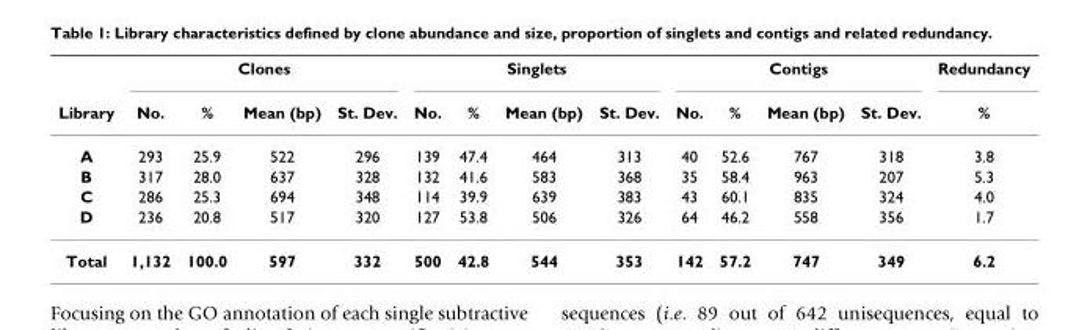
<table><thead><tr><td rowspan="2">Library</td><td colspan="4">Clones</td><td colspan="4">Singlets</td><td colspan="4">Contigs</td><td rowspan="2">Redundancy %</td></tr><tr><td>No.</td><td>%</td><td>Mean (bp)</td><td>St. Dev.</td><td>No.</td><td>%</td><td>Mean (bp)</td><td>St. Dev.</td><td>No.</td><td>%</td><td>Mean (bp)</td><td>St. Dev.</td></tr></thead><tbody><tr><td>A</td><td>293</td><td>25.9</td><td>522</td><td>296</td><td>139</td><td>47.4</td><td>464</td><td>313</td><td>40</td><td>52.6</td><td>767</td><td>318</td><td>3.8</td></tr><tr><td>B</td><td>317</td><td>28.0</td><td>637</td><td>328</td><td>132</td><td>41.6</td><td>583</td><td>368</td><td>35</td><td>58.4</td><td>963</td><td>207</td><td>5.3</td></tr><tr><td>C</td><td>286</td><td>25.3</td><td>694</td><td>348</td><td>114</td><td>39.9</td><td>639</td><td>383</td><td>43</td><td>60.1</td><td>835</td><td>324</td><td>4.0</td></tr><tr><td>D</td><td>236</td><td>20.8</td><td>517</td><td>320</td><td>127</td><td>53.8</td><td>506</td><td>326</td><td>64</td><td>46.2</td><td>558</td><td>356</td><td>1.7</td></tr><tr><td>Total</td><td>1,132</td><td>100.0</td><td>597</td><td>332</td><td>500</td><td>42.8</td><td>544</td><td>353</td><td>142</td><td>57.2</td><td>747</td><td>349</td><td>6.2</td></tr></tbody></table>